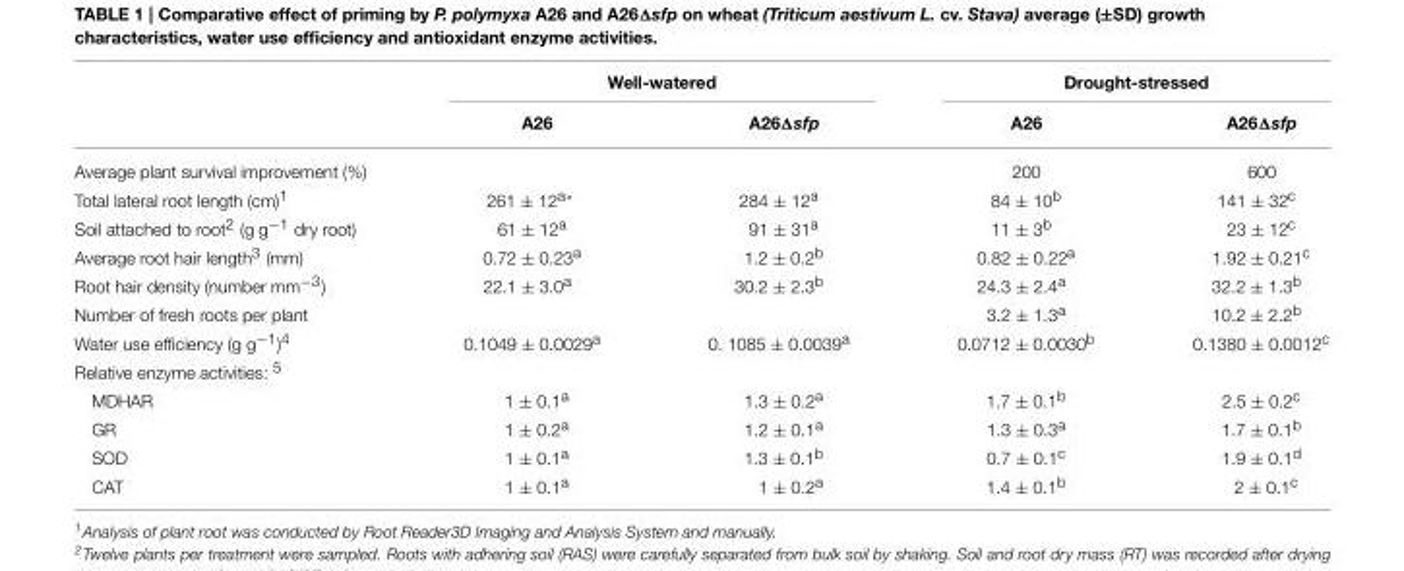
<table><thead><tr><td rowspan="2"></td><td colspan="2">Well-watered</td><td colspan="2">Drought-stressed</td></tr><tr><td>A26</td><td>A26Δsfp</td><td>A26</td><td>A26Δsfp</td></tr></thead><tbody><tr><td>Average plant survival improvement (%)</td><td></td><td></td><td>200</td><td>600</td></tr><tr><td>Total lateral root length (cm)<sup>1</sup></td><td>261 ± 12<sup>a*</sup></td><td>284 ± 12<sup>a</sup></td><td>84 ± 10<sup>b</sup></td><td>141 ± 32<sup>c</sup></td></tr><tr><td>Soil attached to root<sup>2</sup> (g g<sup>−1</sup> dry root)</td><td>61 ± 12<sup>a</sup></td><td>91 ± 31<sup>a</sup></td><td>11 ± 3<sup>b</sup></td><td>23 ± 12<sup>c</sup></td></tr><tr><td>Average root hair length<sup>3</sup> (mm)</td><td>0.72 ± 0.23<sup>a</sup></td><td>1.2 ± 0.2<sup>b</sup></td><td>0.82 ± 0.22<sup>a</sup></td><td>1.92 ± 0.21<sup>c</sup></td></tr><tr><td>Root hair density (number mm<sup>−3</sup>)</td><td>22.1 ± 3.0<sup>a</sup></td><td>30.2 ± 2.3<sup>b</sup></td><td>24.3 ± 2.4<sup>a</sup></td><td>32.2 ± 1.3<sup>b</sup></td></tr><tr><td>Number of fresh roots per plant</td><td></td><td></td><td>3.2 ± 1.3<sup>a</sup></td><td>10.2 ± 2.2<sup>b</sup></td></tr><tr><td>Water use efficiency (g g<sup>−1</sup>)<sup>4</sup></td><td>0.1049 ± 0.0029<sup>a</sup></td><td>0. 1085 ± 0.0039<sup>a</sup></td><td>0.0712 ± 0.0030<sup>b</sup></td><td>0.1380 ± 0.0012<sup>c</sup></td></tr><tr><td colspan="5">Relative enzyme activities: <sup>5</sup></td></tr><tr><td>MDHAR</td><td>1 ± 0.1<sup>a</sup></td><td>1.3 ± 0.2<sup>a</sup></td><td>1.7 ± 0.1<sup>b</sup></td><td>2.5 ± 0.2<sup>c</sup></td></tr><tr><td>GR</td><td>1 ± 0.2<sup>a</sup></td><td>1.2 ± 0.1<sup>a</sup></td><td>1.3 ± 0.3<sup>a</sup></td><td>1.7 ± 0.1<sup>b</sup></td></tr><tr><td>SOD</td><td>1 ± 0.1<sup>a</sup></td><td>1.3 ± 0.1<sup>b</sup></td><td>0.7 ± 0.1<sup>c</sup></td><td>1.9 ± 0.1<sup>d</sup></td></tr><tr><td>CAT</td><td>1 ± 0.1<sup>a</sup></td><td>1 ± 0.2<sup>a</sup></td><td>1.4 ± 0.1<sup>b</sup></td><td>2 ± 0.1<sup>c</sup></td></tr></tbody></table>